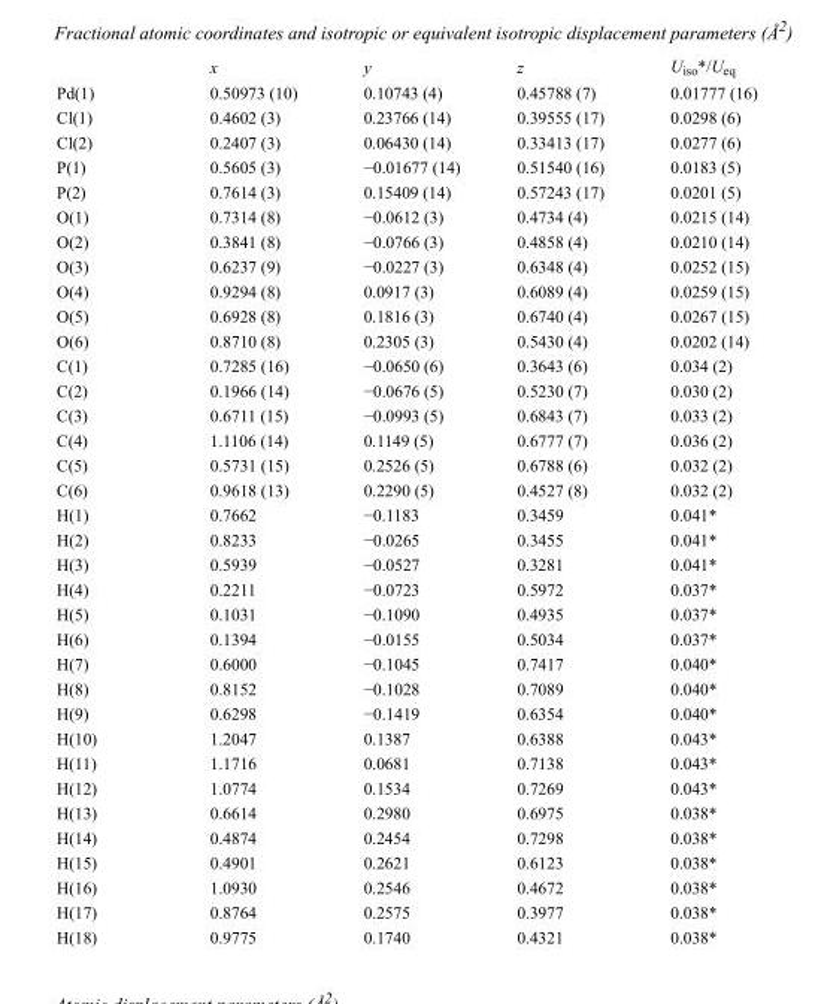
<table><thead><tr><td></td><td>x</td><td>y</td><td>z</td><td>U<sub>iso</sub>*/U<sub>eq</sub></td></tr></thead><tbody><tr><td>Pd(1)</td><td>0.50973 (10)</td><td>0.10743 (4)</td><td>0.45788 (7)</td><td>0.01777 (16)</td></tr><tr><td>Cl(1)</td><td>0.4602 (3)</td><td>0.23766 (14)</td><td>0.39555 (17)</td><td>0.0298 (6)</td></tr><tr><td>Cl(2)</td><td>0.2407 (3)</td><td>0.06430 (14)</td><td>0.33413 (17)</td><td>0.0277 (6)</td></tr><tr><td>P(1)</td><td>0.5605 (3)</td><td>−0.01677 (14)</td><td>0.51540 (16)</td><td>0.0183 (5)</td></tr><tr><td>P(2)</td><td>0.7614 (3)</td><td>0.15409 (14)</td><td>0.57243 (17)</td><td>0.0201 (5)</td></tr><tr><td>O(1)</td><td>0.7314 (8)</td><td>−0.0612 (3)</td><td>0.4734 (4)</td><td>0.0215 (14)</td></tr><tr><td>O(2)</td><td>0.3841 (8)</td><td>−0.0766 (3)</td><td>0.4858 (4)</td><td>0.0210 (14)</td></tr><tr><td>O(3)</td><td>0.6237 (9)</td><td>−0.0227 (3)</td><td>0.6348 (4)</td><td>0.0252 (15)</td></tr><tr><td>O(4)</td><td>0.9294 (8)</td><td>0.0917 (3)</td><td>0.6089 (4)</td><td>0.0259 (15)</td></tr><tr><td>O(5)</td><td>0.6928 (8)</td><td>0.1816 (3)</td><td>0.6740 (4)</td><td>0.0267 (15)</td></tr><tr><td>O(6)</td><td>0.8710 (8)</td><td>0.2305 (3)</td><td>0.5430 (4)</td><td>0.0202 (14)</td></tr><tr><td>C(1)</td><td>0.7285 (16)</td><td>−0.0650 (6)</td><td>0.3643 (6)</td><td>0.034 (2)</td></tr><tr><td>C(2)</td><td>0.1966 (14)</td><td>−0.0676 (5)</td><td>0.5230 (7)</td><td>0.030 (2)</td></tr><tr><td>C(3)</td><td>0.6711 (15)</td><td>−0.0993 (5)</td><td>0.6843 (7)</td><td>0.033 (2)</td></tr><tr><td>C(4)</td><td>1.1106 (14)</td><td>0.1149 (5)</td><td>0.6777 (7)</td><td>0.036 (2)</td></tr><tr><td>C(5)</td><td>0.5731 (15)</td><td>0.2526 (5)</td><td>0.6788 (6)</td><td>0.032 (2)</td></tr><tr><td>C(6)</td><td>0.9618 (13)</td><td>0.2290 (5)</td><td>0.4527 (8)</td><td>0.032 (2)</td></tr><tr><td>H(1)</td><td>0.7662</td><td>−0.1183</td><td>0.3459</td><td>0.041*</td></tr><tr><td>H(2)</td><td>0.8233</td><td>−0.0265</td><td>0.3455</td><td>0.041*</td></tr><tr><td>H(3)</td><td>0.5939</td><td>−0.0527</td><td>0.3281</td><td>0.041*</td></tr><tr><td>H(4)</td><td>0.2211</td><td>−0.0723</td><td>0.5972</td><td>0.037*</td></tr><tr><td>H(5)</td><td>0.1031</td><td>−0.1090</td><td>0.4935</td><td>0.037*</td></tr><tr><td>H(6)</td><td>0.1394</td><td>−0.0155</td><td>0.5034</td><td>0.037*</td></tr><tr><td>H(7)</td><td>0.6000</td><td>−0.1045</td><td>0.7417</td><td>0.040*</td></tr><tr><td>H(8)</td><td>0.8152</td><td>−0.1028</td><td>0.7089</td><td>0.040*</td></tr><tr><td>H(9)</td><td>0.6298</td><td>−0.1419</td><td>0.6354</td><td>0.040*</td></tr><tr><td>H(10)</td><td>1.2047</td><td>0.1387</td><td>0.6388</td><td>0.043*</td></tr><tr><td>H(11)</td><td>1.1716</td><td>0.0681</td><td>0.7138</td><td>0.043*</td></tr><tr><td>H(12)</td><td>1.0774</td><td>0.1534</td><td>0.7269</td><td>0.043*</td></tr><tr><td>H(13)</td><td>0.6614</td><td>0.2980</td><td>0.6975</td><td>0.038*</td></tr><tr><td>H(14)</td><td>0.4874</td><td>0.2454</td><td>0.7298</td><td>0.038*</td></tr><tr><td>H(15)</td><td>0.4901</td><td>0.2621</td><td>0.6123</td><td>0.038*</td></tr><tr><td>H(16)</td><td>1.0930</td><td>0.2546</td><td>0.4672</td><td>0.038*</td></tr><tr><td>H(17)</td><td>0.8764</td><td>0.2575</td><td>0.3977</td><td>0.038*</td></tr><tr><td>H(18)</td><td>0.9775</td><td>0.1740</td><td>0.4321</td><td>0.038*</td></tr></tbody></table>